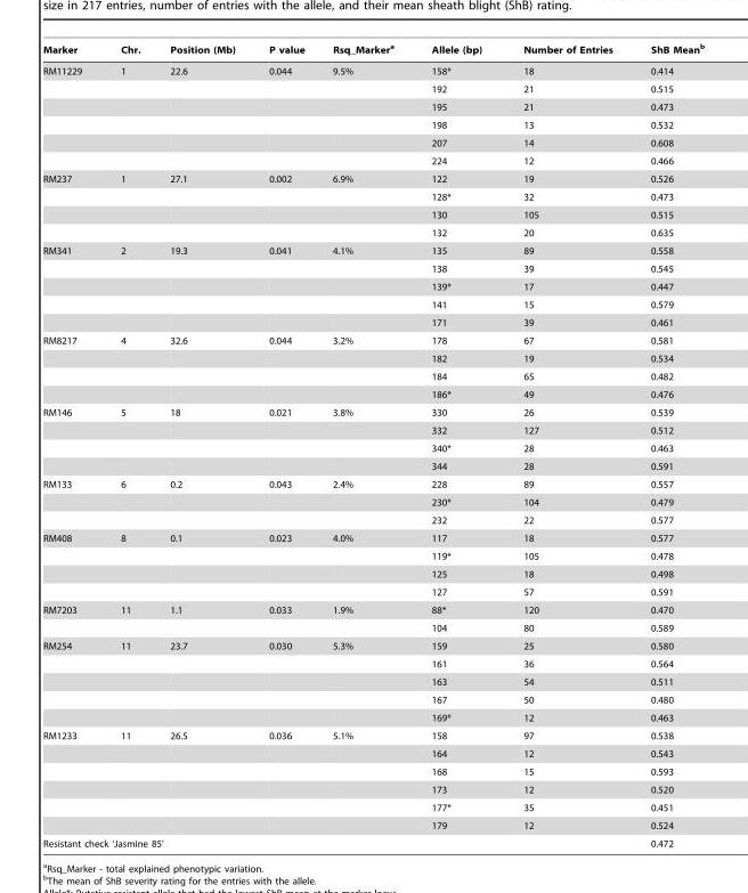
<table><thead><tr><td>Marker</td><td>Chr.</td><td>Position (Mb)</td><td>P value</td><td>Rsq_Marker<sup>a</sup></td><td>Allele (bp)</td><td>Number of Entries</td><td>ShB Mean<sup>b</sup></td></tr></thead><tbody><tr><td rowspan="6">RM11229</td><td>1</td><td>22.6</td><td>0.044</td><td>9.5%</td><td>158*</td><td>18</td><td>0.414</td></tr><tr><td></td><td></td><td></td><td></td><td>192</td><td>21</td><td>0.515</td></tr><tr><td></td><td></td><td></td><td></td><td>195</td><td>21</td><td>0.473</td></tr><tr><td></td><td></td><td></td><td></td><td>198</td><td>13</td><td>0.532</td></tr><tr><td></td><td></td><td></td><td></td><td>207</td><td>14</td><td>0.608</td></tr><tr><td></td><td></td><td></td><td></td><td>224</td><td>12</td><td>0.466</td></tr><tr><td rowspan="4">RM237</td><td>1</td><td>27.1</td><td>0.002</td><td>6.9%</td><td>122</td><td>19</td><td>0.526</td></tr><tr><td></td><td></td><td></td><td></td><td>128*</td><td>32</td><td>0.473</td></tr><tr><td></td><td></td><td></td><td></td><td>130</td><td>105</td><td>0.515</td></tr><tr><td></td><td></td><td></td><td></td><td>132</td><td>20</td><td>0.635</td></tr><tr><td rowspan="5">RM341</td><td>2</td><td>19.3</td><td>0.041</td><td>4.1%</td><td>135</td><td>89</td><td>0.558</td></tr><tr><td></td><td></td><td></td><td></td><td>138</td><td>39</td><td>0.545</td></tr><tr><td></td><td></td><td></td><td></td><td>139*</td><td>17</td><td>0.447</td></tr><tr><td></td><td></td><td></td><td></td><td>141</td><td>15</td><td>0.579</td></tr><tr><td></td><td></td><td></td><td></td><td>171</td><td>39</td><td>0.461</td></tr><tr><td rowspan="4">RM8217</td><td>4</td><td>32.6</td><td>0.044</td><td>3.2%</td><td>178</td><td>67</td><td>0.581</td></tr><tr><td></td><td></td><td></td><td></td><td>182</td><td>19</td><td>0.534</td></tr><tr><td></td><td></td><td></td><td></td><td>184</td><td>65</td><td>0.482</td></tr><tr><td></td><td></td><td></td><td></td><td>186*</td><td>49</td><td>0.476</td></tr><tr><td rowspan="4">RM146</td><td>5</td><td>18</td><td>0.021</td><td>3.8%</td><td>330</td><td>26</td><td>0.539</td></tr><tr><td></td><td></td><td></td><td></td><td>332</td><td>127</td><td>0.512</td></tr><tr><td></td><td></td><td></td><td></td><td>340*</td><td>28</td><td>0.463</td></tr><tr><td></td><td></td><td></td><td></td><td>344</td><td>28</td><td>0.591</td></tr><tr><td rowspan="3">RM133</td><td>6</td><td>0.2</td><td>0.043</td><td>2.4%</td><td>228</td><td>89</td><td>0.557</td></tr><tr><td></td><td></td><td></td><td></td><td>230*</td><td>104</td><td>0.479</td></tr><tr><td></td><td></td><td></td><td></td><td>232</td><td>22</td><td>0.577</td></tr><tr><td rowspan="4">RM408</td><td>8</td><td>0.1</td><td>0.023</td><td>4.0%</td><td>117</td><td>18</td><td>0.577</td></tr><tr><td></td><td></td><td></td><td></td><td>119*</td><td>105</td><td>0.478</td></tr><tr><td></td><td></td><td></td><td></td><td>125</td><td>18</td><td>0.498</td></tr><tr><td></td><td></td><td></td><td></td><td>127</td><td>57</td><td>0.591</td></tr><tr><td rowspan="2">RM7203</td><td>11</td><td>1.1</td><td>0.033</td><td>1.9%</td><td>88*</td><td>120</td><td>0.470</td></tr><tr><td></td><td></td><td></td><td></td><td>104</td><td>80</td><td>0.589</td></tr><tr><td rowspan="5">RM254</td><td>11</td><td>23.7</td><td>0.030</td><td>5.3%</td><td>159</td><td>25</td><td>0.580</td></tr><tr><td></td><td></td><td></td><td></td><td>161</td><td>36</td><td>0.564</td></tr><tr><td></td><td></td><td></td><td></td><td>163</td><td>54</td><td>0.511</td></tr><tr><td></td><td></td><td></td><td></td><td>167</td><td>50</td><td>0.480</td></tr><tr><td></td><td></td><td></td><td></td><td>169*</td><td>12</td><td>0.463</td></tr><tr><td rowspan="6">RM1233</td><td>11</td><td>26.5</td><td>0.036</td><td>5.1%</td><td>158</td><td>97</td><td>0.538</td></tr><tr><td></td><td></td><td></td><td></td><td>164</td><td>12</td><td>0.543</td></tr><tr><td></td><td></td><td></td><td></td><td>168</td><td>15</td><td>0.593</td></tr><tr><td></td><td></td><td></td><td></td><td>173</td><td>12</td><td>0.520</td></tr><tr><td></td><td></td><td></td><td></td><td>177*</td><td>35</td><td>0.451</td></tr><tr><td></td><td></td><td></td><td></td><td>179</td><td>12</td><td>0.524</td></tr><tr><td colspan="3">Resistant check ‘Jasmine 85’</td><td></td><td></td><td></td><td></td><td>0.472</td></tr></tbody></table>